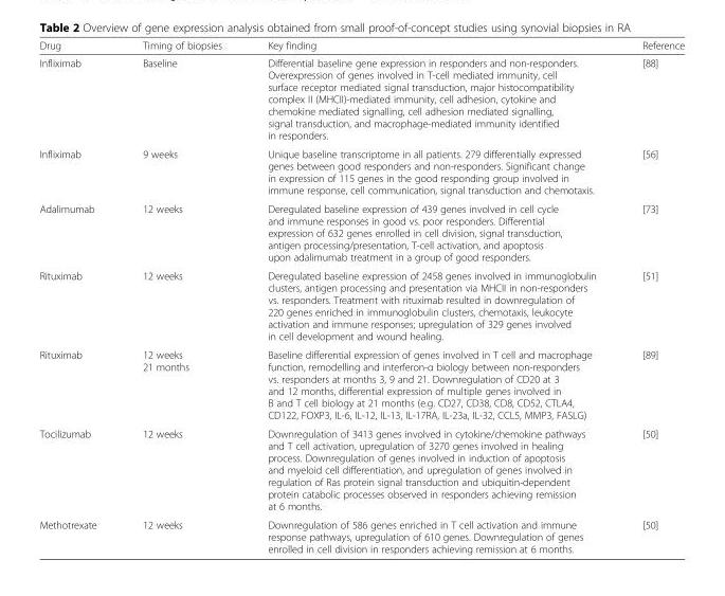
<table><thead><tr><td>Drug</td><td>Timing of biopsies</td><td>Key finding</td><td>Reference</td></tr></thead><tbody><tr><td>Infliximab</td><td>Baseline</td><td>Differential baseline gene expression in responders and non-responders. Overexpression of genes involved in T-cell mediated immunity, cell surface receptor mediated signal transduction, major histocompatibility complex II (MHCII)-mediated immunity, cell adhesion, cytokine and chemokine mediated signalling, cell adhesion mediated signalling, signal transduction, and macrophage-mediated immunity identified in responders.</td><td>[88]</td></tr><tr><td>Infliximab</td><td>9 weeks</td><td>Unique baseline transcriptome in all patients. 279 differentially expressed genes between good responders and non-responders. Significant change in expression of 115 genes in the good responding group involved in immune response, cell communication, signal transduction and chemotaxis.</td><td>[56]</td></tr><tr><td>Adalimumab</td><td>12 weeks</td><td>Deregulated baseline expression of 439 genes involved in cell cycle and immune responses in good vs. poor responders. Differential expression of 632 genes enrolled in cell division, signal transduction, antigen processing/presentation, T-cell activation, and apoptosis upon adalimumab treatment in a group of good responders.</td><td>[73]</td></tr><tr><td>Rituximab</td><td>12 weeks</td><td>Deregulated baseline expression of 2458 genes involved in immunoglobulin clusters, antigen processing and presentation via MHCII in non-responders vs. responders. Treatment with rituximab resulted in downregulation of 220 genes enriched in immunoglobulin clusters, chemotaxis, leukocyte activation and immune responses; upregulation of 329 genes involved in cell development and wound healing.</td><td>[51]</td></tr><tr><td>Rituximab</td><td>12 weeks 21 months</td><td>Baseline differential expression of genes involved in T cell and macrophage function, remodelling and interferon-α biology between non-responders vs. responders at months 3, 9 and 21. Downregulation of CD20 at 3 and 12 months, differential expression of multiple genes involved in B and T cell biology at 21 months (e.g. CD27, CD38, CD8, CD52, CTLA4, CD122, FOXP3, IL-6, IL-12, IL-13, IL-17RA, IL-23a, IL-32, CCL5, MMP3, FASLG)</td><td>[89]</td></tr><tr><td>Tocilizumab</td><td>12 weeks</td><td>Downregulation of 3413 genes involved in cytokine/chemokine pathways and T cell activation, upregulation of 3270 genes involved in healing process. Downregulation of genes involved in induction of apoptosis and myeloid cell differentiation, and upregulation of genes involved in regulation of Ras protein signal transduction and ubiquitin-dependent protein catabolic processes observed in responders achieving remission at 6 months.</td><td>[50]</td></tr><tr><td>Methotrexate</td><td>12 weeks</td><td>Downregulation of 586 genes enriched in T cell activation and immune response pathways, upregulation of 610 genes. Downregulation of genes enrolled in cell division in responders achieving remission at 6 months.</td><td>[50]</td></tr></tbody></table>